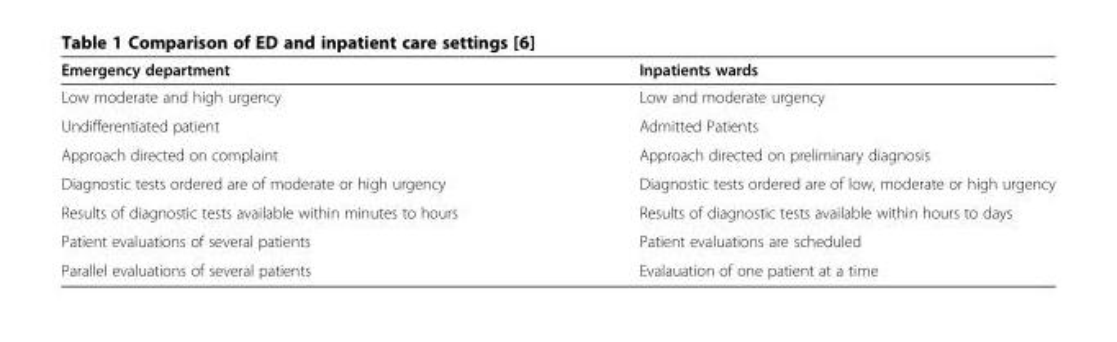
<table><thead><tr><td>Emergency department</td><td>Inpatients wards</td></tr></thead><tbody><tr><td>Low moderate and high urgency</td><td>Low and moderate urgency</td></tr><tr><td>Undifferentiated patient</td><td>Admitted Patients</td></tr><tr><td>Approach directed on complaint</td><td>Approach directed on preliminary diagnosis</td></tr><tr><td>Diagnostic tests ordered are of moderate or high urgency</td><td>Diagnostic tests ordered are of low, moderate or high urgency</td></tr><tr><td>Results of diagnostic tests available within minutes to hours</td><td>Results of diagnostic tests available within hours to days</td></tr><tr><td>Patient evaluations of several patients</td><td>Patient evaluations are scheduled</td></tr><tr><td>Parallel evaluations of several patients</td><td>Evalauation of one patient at a time</td></tr></tbody></table>